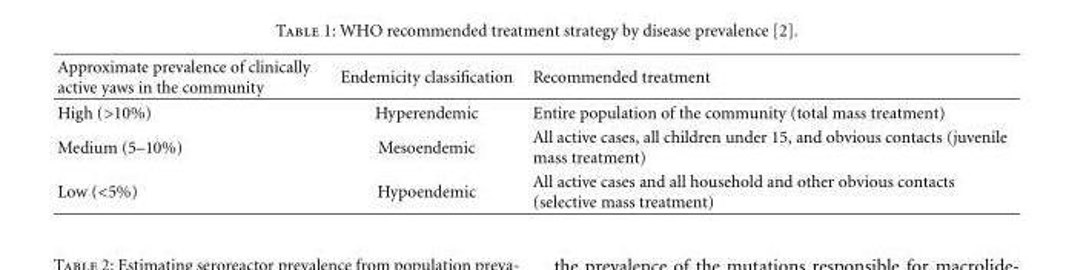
<table><thead><tr><td>Approximate prevalence of clinically active yaws in the community</td><td>Endemicity classification</td><td>Recommended treatment</td></tr></thead><tbody><tr><td>High (&gt;10%)</td><td>Hyperendemic</td><td>Entire population of the community (total mass treatment)</td></tr><tr><td>Medium (5–10%)</td><td>Mesoendemic</td><td>All active cases, all children under 15, and obvious contacts (juvenile mass treatment)</td></tr><tr><td>Low (&lt;5%)</td><td>Hypoendemic</td><td>All active cases and all household and other obvious contacts (selective mass treatment)</td></tr></tbody></table>